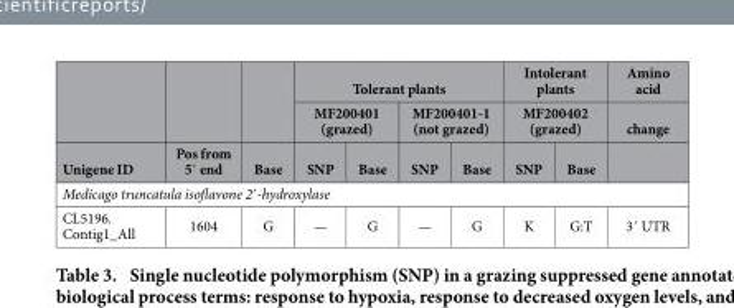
<table><thead><tr><td rowspan="3">Unigene ID</td><td rowspan="3">Pos from 5′ end</td><td rowspan="3">Base</td><td colspan="4">Tolerant plants</td><td rowspan="2" colspan="2">Intolerant plants MF200402 (grazed)</td><td rowspan="3">Amino acid change</td></tr><tr><td colspan="2">MF200401 (grazed)</td><td colspan="2">MF200401-1 (not grazed)</td></tr><tr><td>SNP</td><td>Base</td><td>SNP</td><td>Base</td><td>SNP</td><td>Base</td></tr></thead><tbody><tr><td colspan="10">Medicago truncatula isoflavone 2′ -hydroxylase</td></tr><tr><td>CL5196. Contig1_All</td><td>1604</td><td>G</td><td>—</td><td>G</td><td>—</td><td>G</td><td>K</td><td>G:T</td><td>3′ UTR</td></tr></tbody></table>